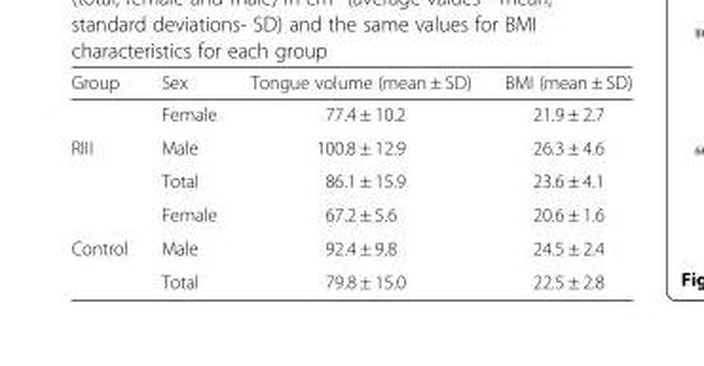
<table><thead><tr><td>Group</td><td>Sex</td><td>Tongue volume (mean ± SD)</td><td>BMI (mean ± SD)</td></tr></thead><tbody><tr><td></td><td>Female</td><td>77.4 ± 10.2</td><td>21.9 ± 2.7</td></tr><tr><td rowspan="3">RIII</td><td>Male</td><td>100.8 ± 12.9</td><td>26.3 ± 4.6</td></tr><tr><td>Total</td><td>86.1 ± 15.9</td><td>23.6 ± 4.1</td></tr><tr><td>Female</td><td>67.2 ± 5.6</td><td>20.6 ± 1.6</td></tr><tr><td rowspan="2">Control</td><td>Male</td><td>92.4 ± 9.8</td><td>24.5 ± 2.4</td></tr><tr><td>Total</td><td>79.8 ± 15.0</td><td>22.5 ± 2.8</td></tr></tbody></table>